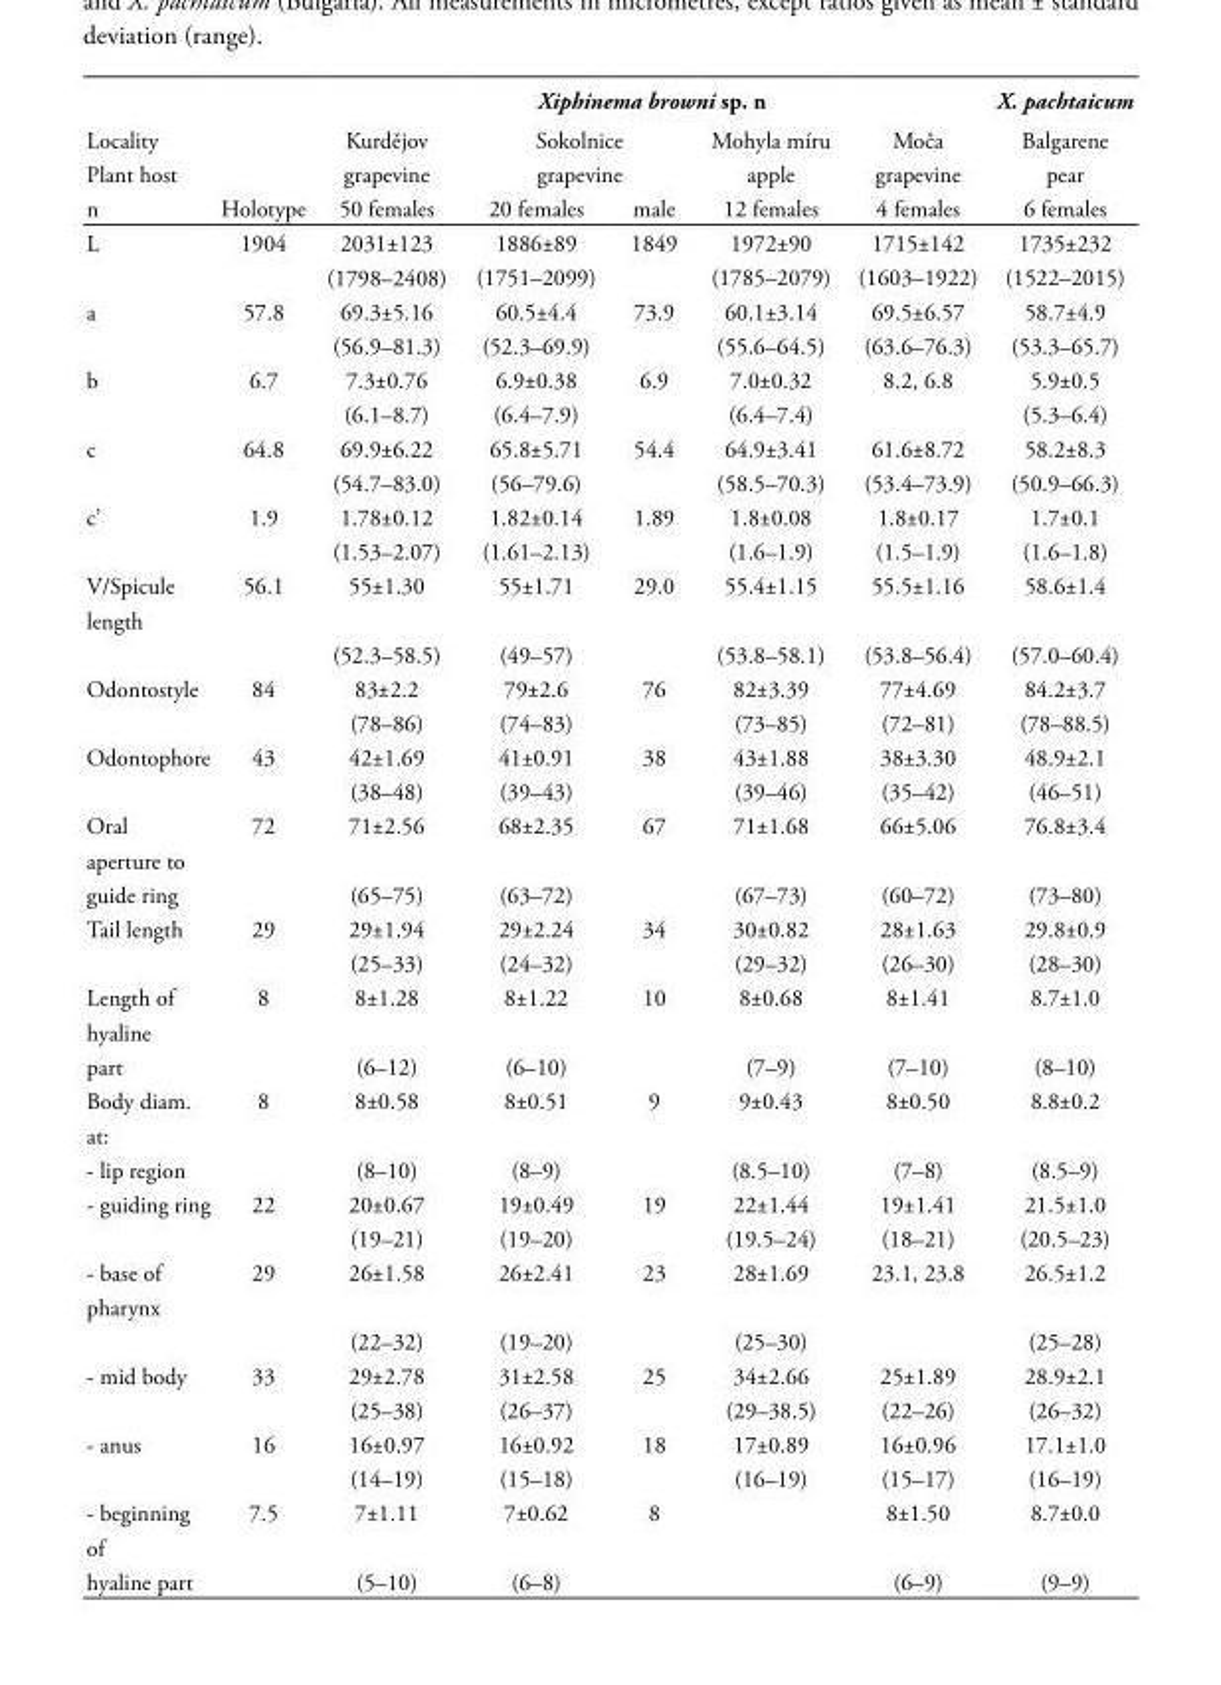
<table><thead><tr><td rowspan="4">Locality Plant host n</td><td rowspan="4">Holotype</td><td colspan="5">Xiphinema browni sp. n</td><td rowspan="4">X. pachtaicum Balgarene pear 6 females</td></tr><tr><td rowspan="3">Kurdějov grapevine 50 females</td><td rowspan="2" colspan="2">Sokolnice grapevine</td><td rowspan="3">Mohyla míru apple 12 females</td><td rowspan="3">Moča grapevine 4 females</td></tr><tr></tr><tr><td>20 females</td><td>male</td></tr></thead><tbody><tr><td rowspan="2">L</td><td>1904</td><td rowspan="2">2031±123 (1798–2408)</td><td>1886±89</td><td>1849</td><td>1972±90</td><td>1715±142</td><td>1735±232</td></tr><tr><td></td><td>(1751–2099)</td><td></td><td>(1785–2079)</td><td>(1603–1922)</td><td>(1522–2015)</td></tr><tr><td rowspan="2">a</td><td>57.8</td><td>69.3±5.16</td><td>60.5±4.4</td><td>73.9</td><td>60.1±3.14</td><td>69.5±6.57</td><td>58.7±4.9</td></tr><tr><td></td><td>(56.9–81.3)</td><td>(52.3–69.9)</td><td></td><td>(55.6–64.5)</td><td>(63.6–76.3)</td><td>(53.3–65.7)</td></tr><tr><td rowspan="2">b</td><td>6.7</td><td>7.3±0.76</td><td>6.9±0.38</td><td>6.9</td><td>7.0±0.32</td><td>8.2, 6.8</td><td>5.9±0.5</td></tr><tr><td></td><td>(6.1–8.7)</td><td>(6.4–7.9)</td><td></td><td>(6.4–7.4)</td><td></td><td>(5.3–6.4)</td></tr><tr><td rowspan="2">c</td><td>64.8</td><td>69.9±6.22</td><td>65.8±5.71</td><td>54.4</td><td>64.9±3.41</td><td>61.6±8.72</td><td>58.2±8.3</td></tr><tr><td></td><td>(54.7–83.0)</td><td>(56–79.6)</td><td></td><td>(58.5–70.3)</td><td>(53.4–73.9)</td><td>(50.9–66.3)</td></tr><tr><td rowspan="2">c’</td><td>1.9</td><td>1.78±0.12</td><td>1.82±0.14</td><td>1.89</td><td>1.8±0.08</td><td>1.8±0.17</td><td>1.7±0.1</td></tr><tr><td></td><td>(1.53–2.07)</td><td>(1.61–2.13)</td><td></td><td>(1.6–1.9)</td><td>(1.5–1.9)</td><td>(1.6–1.8)</td></tr><tr><td rowspan="2">V/Spicule length</td><td>56.1</td><td>55±1.30</td><td>55±1.71</td><td>29.0</td><td>55.4±1.15</td><td>55.5±1.16</td><td>58.6±1.4</td></tr><tr><td></td><td>(52.3–58.5)</td><td>(49–57)</td><td></td><td>(53.8–58.1)</td><td>(53.8–56.4)</td><td>(57.0–60.4)</td></tr><tr><td rowspan="2">Odontostyle</td><td>84</td><td>83±2.2</td><td>79±2.6</td><td>76</td><td>82±3.39</td><td>77±4.69</td><td>84.2±3.7</td></tr><tr><td></td><td>(78–86)</td><td>(74–83)</td><td></td><td>(73–85)</td><td>(72–81)</td><td>(78–88.5)</td></tr><tr><td rowspan="2">Odontophore</td><td>43</td><td>42±1.69</td><td>41±0.91</td><td>38</td><td>43±1.88</td><td>38±3.30</td><td>48.9±2.1</td></tr><tr><td></td><td>(38–48)</td><td>(39–43)</td><td></td><td>(39–46)</td><td>(35–42)</td><td>(46–51)</td></tr><tr><td>Oral aperture to</td><td>72</td><td>71±2.56</td><td>68±2.35</td><td>67</td><td>71±1.68</td><td>66±5.06</td><td>76.8±3.4</td></tr><tr><td>guide ring</td><td></td><td>(65–75)</td><td>(63–72)</td><td></td><td>(67–73)</td><td>(60–72)</td><td>(73–80)</td></tr><tr><td rowspan="2">Tail length</td><td>29</td><td>29±1.94</td><td>29±2.24</td><td>34</td><td>30±0.82</td><td>28±1.63</td><td>29.8±0.9</td></tr><tr><td></td><td>(25–33)</td><td>(24–32)</td><td></td><td>(29–32)</td><td>(26–30)</td><td>(28–30)</td></tr><tr><td>Length of hyaline</td><td>8</td><td>8±1.28</td><td>8±1.22</td><td>10</td><td>8±0.68</td><td>8±1.41</td><td>8.7±1.0</td></tr><tr><td>part</td><td></td><td>(6–12)</td><td>(6–10)</td><td></td><td>(7–9)</td><td>(7–10)</td><td>(8–10)</td></tr><tr><td>Body diam. at:</td><td>8</td><td>8±0.58</td><td>8±0.51</td><td>9</td><td>9±0.43</td><td>8±0.50</td><td>8.8±0.2</td></tr><tr><td>- lip region</td><td></td><td>(8–10)</td><td>(8–9)</td><td></td><td>(8.5–10)</td><td>(7–8)</td><td>(8.5–9)</td></tr><tr><td rowspan="2">- guiding ring</td><td>22</td><td>20±0.67</td><td>19±0.49</td><td>19</td><td>22±1.44</td><td>19±1.41</td><td>21.5±1.0</td></tr><tr><td></td><td>(19–21)</td><td>(19–20)</td><td></td><td>(19.5–24)</td><td>(18–21)</td><td>(20.5–23)</td></tr><tr><td rowspan="2">- base of pharynx</td><td>29</td><td>26±1.58</td><td>26±2.41</td><td>23</td><td>28±1.69</td><td>23.1, 23.8</td><td>26.5±1.2</td></tr><tr><td></td><td>(22–32)</td><td>(19–20)</td><td></td><td>(25–30)</td><td></td><td>(25–28)</td></tr><tr><td rowspan="2">- mid body</td><td>33</td><td>29±2.78</td><td>31±2.58</td><td>25</td><td>34±2.66</td><td>25±1.89</td><td>28.9±2.1</td></tr><tr><td></td><td>(25–38)</td><td>(26–37)</td><td></td><td>(29–38.5)</td><td>(22–26)</td><td>(26–32)</td></tr><tr><td rowspan="2">- anus</td><td>16</td><td>16±0.97</td><td>16±0.92</td><td>18</td><td>17±0.89</td><td>16±0.96</td><td>17.1±1.0</td></tr><tr><td></td><td>(14–19)</td><td>(15–18)</td><td></td><td>(16–19)</td><td>(15–17)</td><td>(16–19)</td></tr><tr><td>- beginning of</td><td>7.5</td><td>7±1.11</td><td>7±0.62</td><td>8</td><td></td><td>8±1.50</td><td>8.7±0.0</td></tr><tr><td>hyaline part</td><td></td><td>(5–10)</td><td>(6–8)</td><td></td><td></td><td>(6–9)</td><td>(9–9)</td></tr></tbody></table>